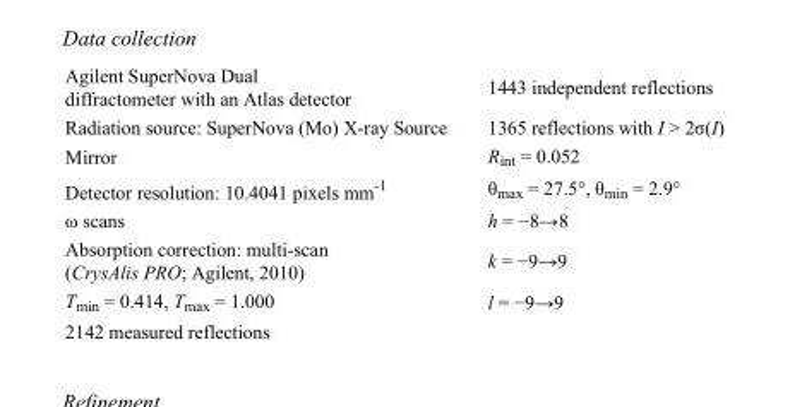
<table><tbody><tr><td>Agilent SuperNova Dual diffractometer with an Atlas detector</td><td>1443 independent reflections</td></tr><tr><td>Radiation source: SuperNova (Mo) X-ray Source</td><td>1365 reflections with I &gt; 2σ(I)</td></tr><tr><td>Mirror</td><td>R<sub>int</sub> = 0.052</td></tr><tr><td>Detector resolution: 10.4041 pixels mm<sup>-1</sup></td><td>θ<sub>max</sub> = 27.5°, θ<sub>min</sub> = 2.9°</td></tr><tr><td>ω scans</td><td>h = −8→8</td></tr><tr><td>Absorption correction: multi-scan (CrysAlis PRO; Agilent, 2010)</td><td>k = −9→9</td></tr><tr><td>T<sub>min</sub> = 0.414, T<sub>max</sub> = 1.000</td><td>l = −9→9</td></tr><tr><td>2142 measured reflections</td><td></td></tr></tbody></table>